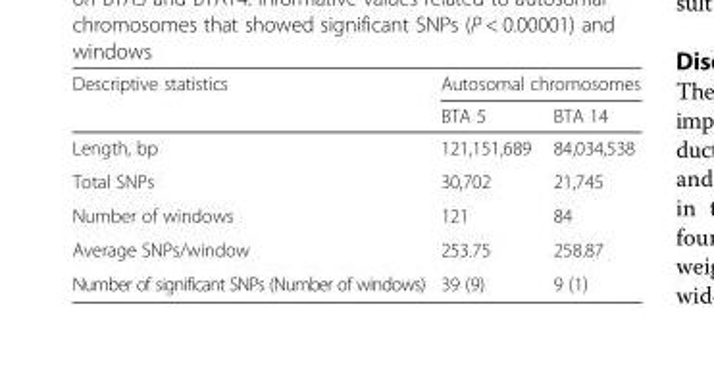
<table><thead><tr><td rowspan="2">Descriptive statistics</td><td colspan="2">Autosomal chromosomes</td></tr><tr><td>BTA 5</td><td>BTA 14</td></tr></thead><tbody><tr><td>Length, bp</td><td>121,151,689</td><td>84,034,538</td></tr><tr><td>Total SNPs</td><td>30,702</td><td>21,745</td></tr><tr><td>Number of windows</td><td>121</td><td>84</td></tr><tr><td>Average SNPs/window</td><td>253.75</td><td>258.87</td></tr><tr><td>Number of significant SNPs (Number of windows)</td><td>39 (9)</td><td>9 (1)</td></tr></tbody></table>